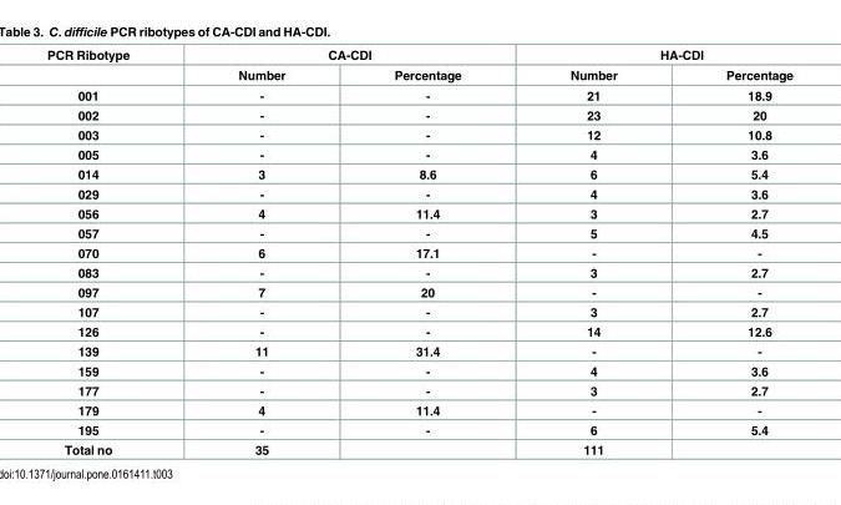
<table><thead><tr><td rowspan="2">PCR Ribotype</td><td colspan="2">CA-CDI</td><td colspan="2">HA-CDI</td></tr><tr><td>Number</td><td>Percentage</td><td>Number</td><td>Percentage</td></tr></thead><tbody><tr><td>001</td><td>-</td><td>-</td><td>21</td><td>18.9</td></tr><tr><td>002</td><td>-</td><td>-</td><td>23</td><td>20</td></tr><tr><td>003</td><td>-</td><td>-</td><td>12</td><td>10.8</td></tr><tr><td>005</td><td>-</td><td>-</td><td>4</td><td>3.6</td></tr><tr><td>014</td><td>3</td><td>8.6</td><td>6</td><td>5.4</td></tr><tr><td>029</td><td>-</td><td>-</td><td>4</td><td>3.6</td></tr><tr><td>056</td><td>4</td><td>11.4</td><td>3</td><td>2.7</td></tr><tr><td>057</td><td>-</td><td>-</td><td>5</td><td>4.5</td></tr><tr><td>070</td><td>6</td><td>17.1</td><td>-</td><td>-</td></tr><tr><td>083</td><td>-</td><td>-</td><td>3</td><td>2.7</td></tr><tr><td>097</td><td>7</td><td>20</td><td>-</td><td>-</td></tr><tr><td>107</td><td>-</td><td>-</td><td>3</td><td>2.7</td></tr><tr><td>126</td><td>-</td><td>-</td><td>14</td><td>12.6</td></tr><tr><td>139</td><td>11</td><td>31.4</td><td>-</td><td>-</td></tr><tr><td>159</td><td>-</td><td>-</td><td>4</td><td>3.6</td></tr><tr><td>177</td><td>-</td><td>-</td><td>3</td><td>2.7</td></tr><tr><td>179</td><td>4</td><td>11.4</td><td>-</td><td>-</td></tr><tr><td>195</td><td>-</td><td>-</td><td>6</td><td>5.4</td></tr><tr><td>Total no</td><td>35</td><td></td><td>111</td><td></td></tr></tbody></table>